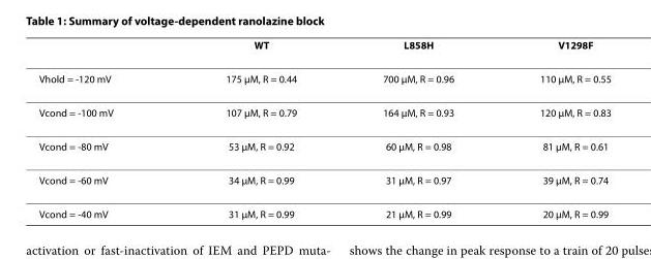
<table><thead><tr><td></td><td>WT</td><td>L858H</td><td>V1298F</td></tr></thead><tbody><tr><td>Vhold = -120 mV</td><td>175 μM, R = 0.44</td><td>700 μM, R = 0.96</td><td>110 μM, R = 0.55</td></tr><tr><td>Vcond = -100 mV</td><td>107 μM, R = 0.79</td><td>164 μM, R = 0.93</td><td>120 μM, R = 0.83</td></tr><tr><td>Vcond = -80 mV</td><td>53 μM, R = 0.92</td><td>60 μM, R = 0.98</td><td>81 μM, R = 0.61</td></tr><tr><td>Vcond = -60 mV</td><td>34 μM, R = 0.99</td><td>31 μM, R = 0.97</td><td>39 μM, R = 0.74</td></tr><tr><td>Vcond = -40 mV</td><td>31 μM, R = 0.99</td><td>21 μM, R = 0.99</td><td>20 μM, R = 0.99</td></tr></tbody></table>